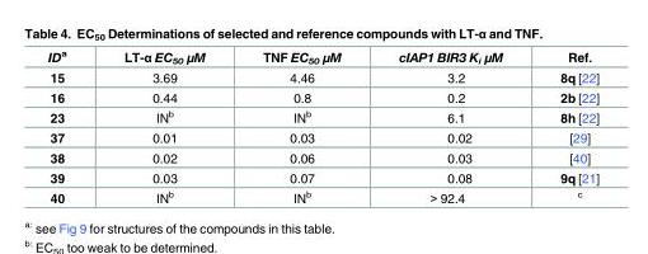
<table><thead><tr><td>ID<sup>a</sup></td><td>LT-α EC<sub>50</sub> μM</td><td>TNF EC<sub>50</sub> μM</td><td>cIAP1 BIR3 K<sub>i</sub> μM</td><td>Ref.</td></tr></thead><tbody><tr><td>15</td><td>3.69</td><td>4.46</td><td>3.2</td><td>8q [22]</td></tr><tr><td>16</td><td>0.44</td><td>0.8</td><td>0.2</td><td>2b [22]</td></tr><tr><td>23</td><td>IN<sup>b</sup></td><td>IN<sup>b</sup></td><td>6.1</td><td>8h [22]</td></tr><tr><td>37</td><td>0.01</td><td>0.03</td><td>0.02</td><td>[29]</td></tr><tr><td>38</td><td>0.02</td><td>0.06</td><td>0.03</td><td>[40]</td></tr><tr><td>39</td><td>0.03</td><td>0.07</td><td>0.08</td><td>9q [21]</td></tr><tr><td>40</td><td>IN<sup>b</sup></td><td>IN<sup>b</sup></td><td>&gt; 92.4</td><td><sup>c</sup></td></tr></tbody></table>